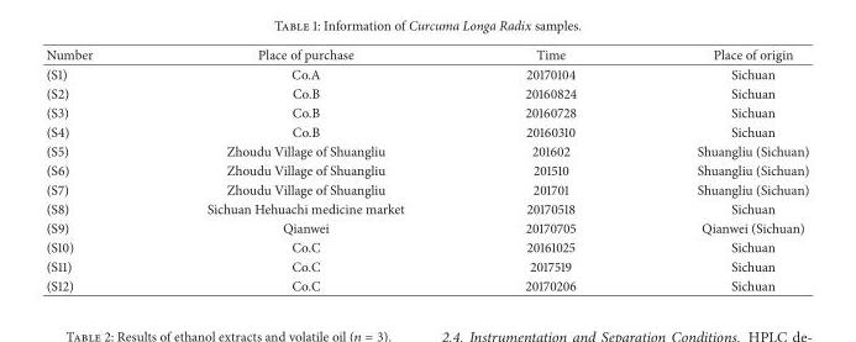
<table><thead><tr><td>Number</td><td>Place of purchase</td><td>Time</td><td>Place of origin</td></tr></thead><tbody><tr><td>(S1)</td><td>Co.A</td><td>20170104</td><td>Sichuan</td></tr><tr><td>(S2)</td><td>Co.B</td><td>20160824</td><td>Sichuan</td></tr><tr><td>(S3)</td><td>Co.B</td><td>20160728</td><td>Sichuan</td></tr><tr><td>(S4)</td><td>Co.B</td><td>20160310</td><td>Sichuan</td></tr><tr><td>(S5)</td><td>Zhoudu Village of Shuangliu</td><td>201602</td><td>Shuangliu (Sichuan)</td></tr><tr><td>(S6)</td><td>Zhoudu Village of Shuangliu</td><td>201510</td><td>Shuangliu (Sichuan)</td></tr><tr><td>(S7)</td><td>Zhoudu Village of Shuangliu</td><td>201701</td><td>Shuangliu (Sichuan)</td></tr><tr><td>(S8)</td><td>Sichuan Hehuachi medicine market</td><td>20170518</td><td>Sichuan</td></tr><tr><td>(S9)</td><td>Qianwei</td><td>20170705</td><td>Qianwei (Sichuan)</td></tr><tr><td>(S10)</td><td>Co.C</td><td>20161025</td><td>Sichuan</td></tr><tr><td>(S11)</td><td>Co.C</td><td>2017519</td><td>Sichuan</td></tr><tr><td>(S12)</td><td>Co.C</td><td>20170206</td><td>Sichuan</td></tr></tbody></table>